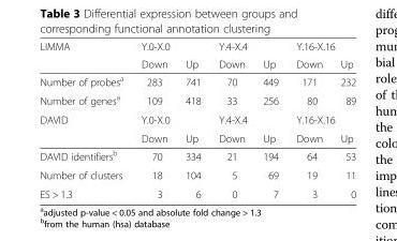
<table><thead><tr><td rowspan="2">LIMMA</td><td colspan="2">Y.0-X.0</td><td colspan="2">Y.4-X.4</td><td colspan="2">Y.16-X.16</td></tr><tr><td>Down</td><td>Up</td><td>Down</td><td>Up</td><td>Down</td><td>Up</td></tr></thead><tbody><tr><td>Number of probes<sup>a</sup></td><td>283</td><td>741</td><td>70</td><td>449</td><td>171</td><td>232</td></tr><tr><td>Number of genes<sup>a</sup></td><td>109</td><td>418</td><td>33</td><td>256</td><td>80</td><td>89</td></tr><tr><td rowspan="2">DAVID</td><td colspan="2">Y.0-X.0</td><td colspan="2">Y.4-X.4</td><td colspan="2">Y.16-X.16</td></tr><tr><td>Down</td><td>Up</td><td>Down</td><td>Up</td><td>Down</td><td>Up</td></tr><tr><td>DAVID identifiers<sup>b</sup></td><td>70</td><td>334</td><td>21</td><td>194</td><td>64</td><td>53</td></tr><tr><td>Number of clusters</td><td>18</td><td>104</td><td>5</td><td>69</td><td>19</td><td>11</td></tr><tr><td>ES &gt; 1.3</td><td>3</td><td>6</td><td>0</td><td>7</td><td>3</td><td>0</td></tr></tbody></table>